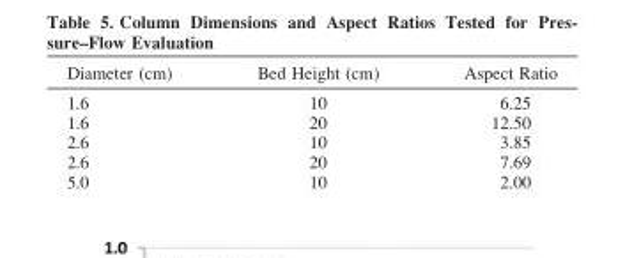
<table><thead><tr><td>Diameter (cm)</td><td>Bed Height (cm)</td><td>Aspect Ratio</td></tr></thead><tbody><tr><td>1.6</td><td>10</td><td>6.25</td></tr><tr><td>1.6</td><td>20</td><td>12.50</td></tr><tr><td>2.6</td><td>10</td><td>3.85</td></tr><tr><td>2.6</td><td>20</td><td>7.69</td></tr><tr><td>5.0</td><td>10</td><td>2.00</td></tr></tbody></table>